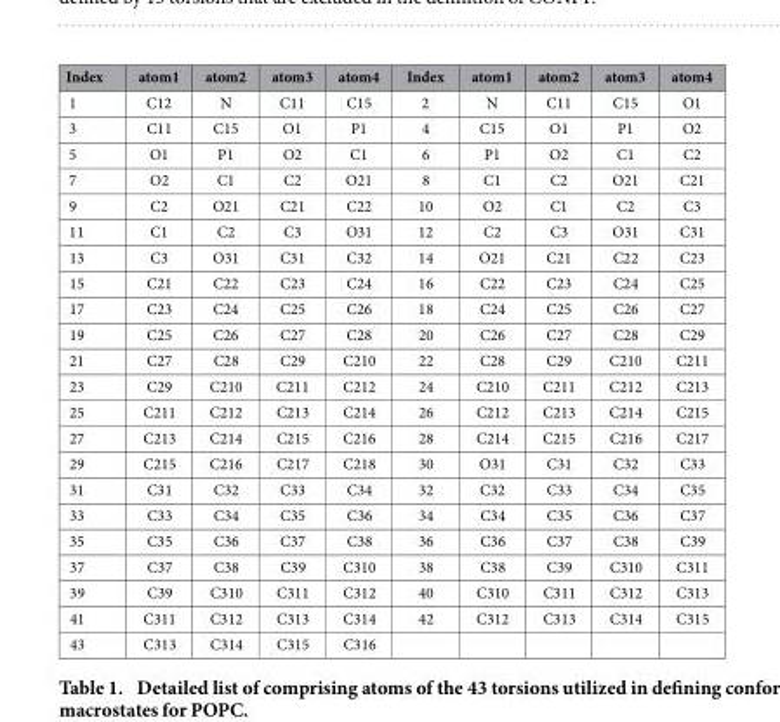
<table><thead><tr><td>Index</td><td>atom1</td><td>atom2</td><td>atom3</td><td>atom4</td><td>Index</td><td>atom1</td><td>atom2</td><td>atom3</td><td>atom4</td></tr></thead><tbody><tr><td>1</td><td>C12</td><td>N</td><td>C11</td><td>C15</td><td>2</td><td>N</td><td>C11</td><td>C15</td><td>O1</td></tr><tr><td>3</td><td>C11</td><td>C15</td><td>O1</td><td>P1</td><td>4</td><td>C15</td><td>O1</td><td>P1</td><td>O2</td></tr><tr><td>5</td><td>O1</td><td>P1</td><td>O2</td><td>C1</td><td>6</td><td>P1</td><td>O2</td><td>C1</td><td>C2</td></tr><tr><td>7</td><td>O2</td><td>C1</td><td>C2</td><td>O21</td><td>8</td><td>C1</td><td>C2</td><td>O21</td><td>C21</td></tr><tr><td>9</td><td>C2</td><td>O21</td><td>C21</td><td>C22</td><td>10</td><td>O2</td><td>C1</td><td>C2</td><td>C3</td></tr><tr><td>11</td><td>C1</td><td>C2</td><td>C3</td><td>O31</td><td>12</td><td>C2</td><td>C3</td><td>O31</td><td>C31</td></tr><tr><td>13</td><td>C3</td><td>O31</td><td>C31</td><td>C32</td><td>14</td><td>O21</td><td>C21</td><td>C22</td><td>C23</td></tr><tr><td>15</td><td>C21</td><td>C22</td><td>C23</td><td>C24</td><td>16</td><td>C22</td><td>C23</td><td>C24</td><td>C25</td></tr><tr><td>17</td><td>C23</td><td>C24</td><td>C25</td><td>C26</td><td>18</td><td>C24</td><td>C25</td><td>C26</td><td>C27</td></tr><tr><td>19</td><td>C25</td><td>C26</td><td>C27</td><td>C28</td><td>20</td><td>C26</td><td>C27</td><td>C28</td><td>C29</td></tr><tr><td>21</td><td>C27</td><td>C28</td><td>C29</td><td>C210</td><td>22</td><td>C28</td><td>C29</td><td>C210</td><td>C211</td></tr><tr><td>23</td><td>C29</td><td>C210</td><td>C211</td><td>C212</td><td>24</td><td>C210</td><td>C211</td><td>C212</td><td>C213</td></tr><tr><td>25</td><td>C211</td><td>C212</td><td>C213</td><td>C214</td><td>26</td><td>C212</td><td>C213</td><td>C214</td><td>C215</td></tr><tr><td>27</td><td>C213</td><td>C214</td><td>C215</td><td>C216</td><td>28</td><td>C214</td><td>C215</td><td>C216</td><td>C217</td></tr><tr><td>29</td><td>C215</td><td>C216</td><td>C217</td><td>C218</td><td>30</td><td>O31</td><td>C31</td><td>C32</td><td>C33</td></tr><tr><td>31</td><td>C31</td><td>C32</td><td>C33</td><td>C34</td><td>32</td><td>C32</td><td>C33</td><td>C34</td><td>C35</td></tr><tr><td>33</td><td>C33</td><td>C34</td><td>C35</td><td>C36</td><td>34</td><td>C34</td><td>C35</td><td>C36</td><td>C37</td></tr><tr><td>35</td><td>C35</td><td>C36</td><td>C37</td><td>C38</td><td>36</td><td>C36</td><td>C37</td><td>C38</td><td>C39</td></tr><tr><td>37</td><td>C37</td><td>C38</td><td>C39</td><td>C310</td><td>38</td><td>C38</td><td>C39</td><td>C310</td><td>C311</td></tr><tr><td>39</td><td>C39</td><td>C310</td><td>C311</td><td>C312</td><td>40</td><td>C310</td><td>C311</td><td>C312</td><td>C313</td></tr><tr><td>41</td><td>C311</td><td>C312</td><td>C313</td><td>C314</td><td>42</td><td>C312</td><td>C313</td><td>C314</td><td>C315</td></tr><tr><td>43</td><td>C313</td><td>C314</td><td>C315</td><td>C316</td><td></td><td></td><td></td><td></td><td></td></tr></tbody></table>